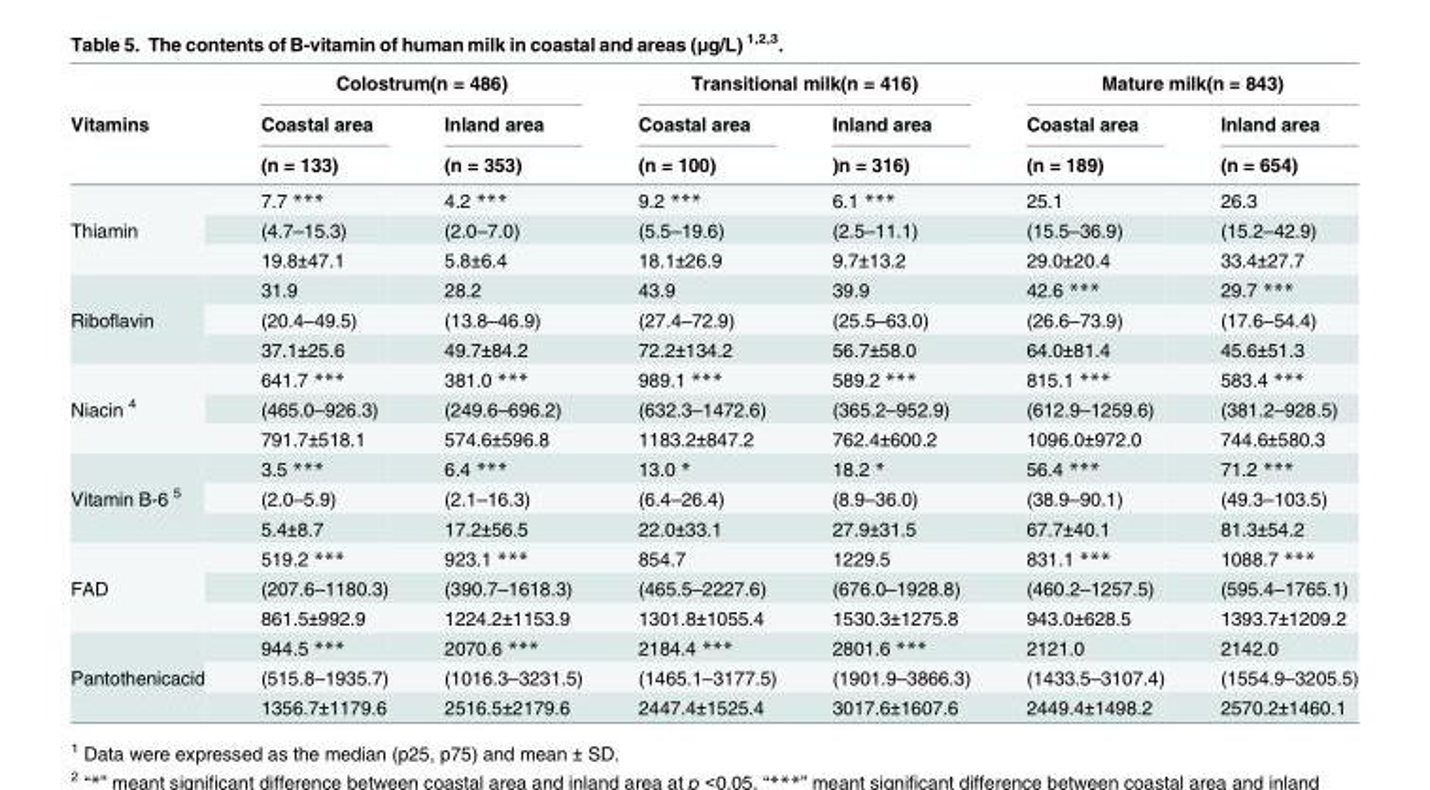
<table><thead><tr><td rowspan="3">Vitamins</td><td colspan="2">Colostrum(n = 486)</td><td colspan="2">Transitional milk(n = 416)</td><td colspan="2">Mature milk(n = 843)</td></tr><tr><td rowspan="2">Coastal area (n = 133)</td><td rowspan="2">Inland area (n = 353)</td><td rowspan="2">Coastal area (n = 100)</td><td rowspan="2">Inland area )n = 316)</td><td rowspan="2">Coastal area (n = 189)</td><td rowspan="2">Inland area (n = 654)</td></tr><tr></tr></thead><tbody><tr><td rowspan="3">Thiamin</td><td>7.7 ***</td><td>4.2 ***</td><td>9.2 ***</td><td>6.1 ***</td><td>25.1</td><td>26.3</td></tr><tr><td>(4.7–15.3)</td><td>(2.0–7.0)</td><td>(5.5–19.6)</td><td>(2.5–11.1)</td><td>(15.5–36.9)</td><td>(15.2–42.9)</td></tr><tr><td>19.8±47.1</td><td>5.8±6.4</td><td>18.1±26.9</td><td>9.7±13.2</td><td>29.0±20.4</td><td>33.4±27.7</td></tr><tr><td rowspan="3">Riboflavin</td><td>31.9</td><td>28.2</td><td>43.9</td><td>39.9</td><td>42.6 ***</td><td>29.7 ***</td></tr><tr><td>(20.4–49.5)</td><td>(13.8–46.9)</td><td>(27.4–72.9)</td><td>(25.5–63.0)</td><td>(26.6–73.9)</td><td>(17.6–54.4)</td></tr><tr><td>37.1±25.6</td><td>49.7±84.2</td><td>72.2±134.2</td><td>56.7±58.0</td><td>64.0±81.4</td><td>45.6±51.3</td></tr><tr><td rowspan="3">Niacin <sup>4</sup></td><td>641.7 ***</td><td>381.0 ***</td><td>989.1 ***</td><td>589.2 ***</td><td>815.1 ***</td><td>583.4 ***</td></tr><tr><td>(465.0–926.3)</td><td>(249.6–696.2)</td><td>(632.3–1472.6)</td><td>(365.2–952.9)</td><td>(612.9–1259.6)</td><td>(381.2–928.5)</td></tr><tr><td>791.7±518.1</td><td>574.6±596.8</td><td>1183.2±847.2</td><td>762.4±600.2</td><td>1096.0±972.0</td><td>744.6±580.3</td></tr><tr><td rowspan="3">Vitamin B-6 <sup>5</sup></td><td>3.5 ***</td><td>6.4 ***</td><td>13.0 *</td><td>18.2 *</td><td>56.4 ***</td><td>71.2 ***</td></tr><tr><td>(2.0–5.9)</td><td>(2.1–16.3)</td><td>(6.4–26.4)</td><td>(8.9–36.0)</td><td>(38.9–90.1)</td><td>(49.3–103.5)</td></tr><tr><td>5.4±8.7</td><td>17.2±56.5</td><td>22.0±33.1</td><td>27.9±31.5</td><td>67.7±40.1</td><td>81.3±54.2</td></tr><tr><td rowspan="3">FAD</td><td>519.2 ***</td><td>923.1 ***</td><td>854.7</td><td>1229.5</td><td>831.1 ***</td><td>1088.7 ***</td></tr><tr><td>(207.6–1180.3)</td><td>(390.7–1618.3)</td><td>(465.5–2227.6)</td><td>(676.0–1928.8)</td><td>(460.2–1257.5)</td><td>(595.4–1765.1)</td></tr><tr><td>861.5±992.9</td><td>1224.2±1153.9</td><td>1301.8±1055.4</td><td>1530.3±1275.8</td><td>943.0±628.5</td><td>1393.7±1209.2</td></tr><tr><td rowspan="3">Pantothenicacid</td><td>944.5 ***</td><td>2070.6 ***</td><td>2184.4 ***</td><td>2801.6 ***</td><td>2121.0</td><td>2142.0</td></tr><tr><td>(515.8–1935.7)</td><td>(1016.3–3231.5)</td><td>(1465.1–3177.5)</td><td>(1901.9–3866.3)</td><td>(1433.5–3107.4)</td><td>(1554.9–3205.5)</td></tr><tr><td>1356.7±1179.6</td><td>2516.5±2179.6</td><td>2447.4±1525.4</td><td>3017.6±1607.6</td><td>2449.4±1498.2</td><td>2570.2±1460.1</td></tr></tbody></table>